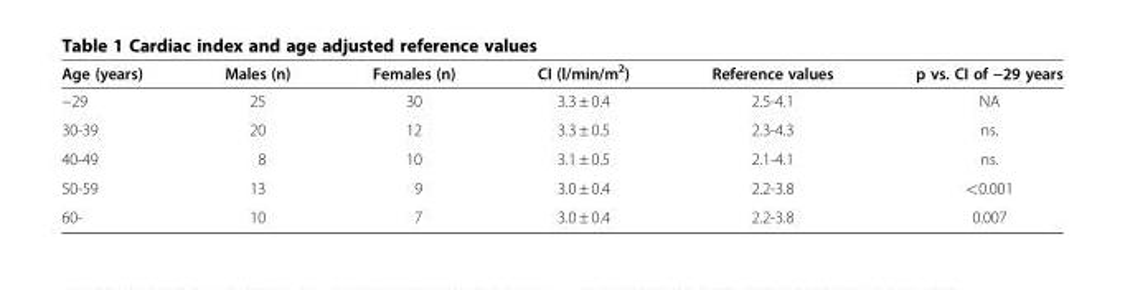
<table><thead><tr><td>Age (years)</td><td>Males (n)</td><td>Females (n)</td><td>CI (l/min/m<sup>2</sup>)</td><td>Reference values</td><td>p vs. CI of −29 years</td></tr></thead><tbody><tr><td>−29</td><td>25</td><td>30</td><td>3.3 ± 0.4</td><td>2.5-4.1</td><td>NA</td></tr><tr><td>30-39</td><td>20</td><td>12</td><td>3.3 ± 0.5</td><td>2.3-4.3</td><td>ns.</td></tr><tr><td>40-49</td><td>8</td><td>10</td><td>3.1 ± 0.5</td><td>2.1-4.1</td><td>ns.</td></tr><tr><td>50-59</td><td>13</td><td>9</td><td>3.0 ± 0.4</td><td>2.2-3.8</td><td>&lt;0.001</td></tr><tr><td>60-</td><td>10</td><td>7</td><td>3.0 ± 0.4</td><td>2.2-3.8</td><td>0.007</td></tr></tbody></table>